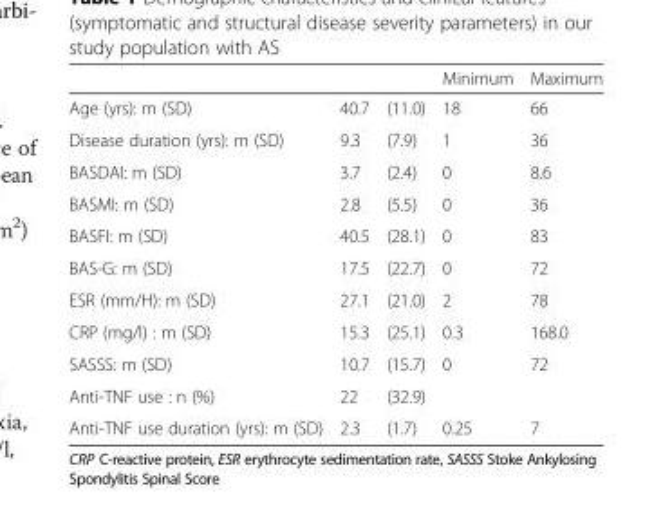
<table><thead><tr><td></td><td></td><td></td><td>Minimum</td><td>Maximum</td></tr></thead><tbody><tr><td>Age (yrs): m (SD)</td><td>40.7</td><td>(11.0)</td><td>18</td><td>66</td></tr><tr><td>Disease duration (yrs): m (SD)</td><td>9.3</td><td>(7.9)</td><td>1</td><td>36</td></tr><tr><td>BASDAI: m (SD)</td><td>3.7</td><td>(2.4)</td><td>0</td><td>8.6</td></tr><tr><td>BASMI: m (SD)</td><td>2.8</td><td>(5.5)</td><td>0</td><td>36</td></tr><tr><td>BASFI: m (SD)</td><td>40.5</td><td>(28.1)</td><td>0</td><td>83</td></tr><tr><td>BAS-G: m (SD)</td><td>17.5</td><td>(22.7)</td><td>0</td><td>72</td></tr><tr><td>ESR (mm/H): m (SD)</td><td>27.1</td><td>(21.0)</td><td>2</td><td>78</td></tr><tr><td>CRP (mg/l) : m (SD)</td><td>15.3</td><td>(25.1)</td><td>0.3</td><td>168.0</td></tr><tr><td>SASSS: m (SD)</td><td>10.7</td><td>(15.7)</td><td>0</td><td>72</td></tr><tr><td>Anti-TNF use : n (%)</td><td>22</td><td>(32.9)</td><td></td><td></td></tr><tr><td>Anti-TNF use duration (yrs): m (SD)</td><td>2.3</td><td>(1.7)</td><td>0.25</td><td>7</td></tr></tbody></table>